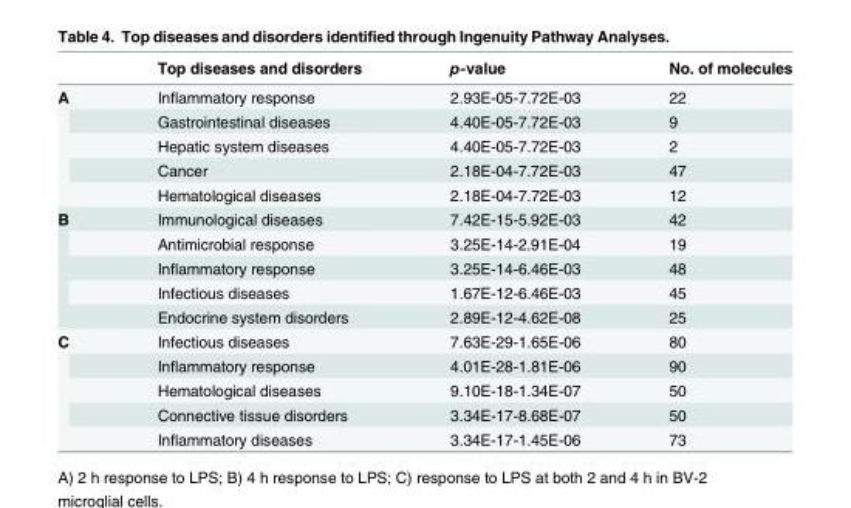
<table><thead><tr><td></td><td>Top diseases and disorders</td><td>p-value</td><td>No. of molecules</td></tr></thead><tbody><tr><td rowspan="5">A</td><td>Inflammatory response</td><td>2.93E-05-7.72E-03</td><td>22</td></tr><tr><td>Gastrointestinal diseases</td><td>4.40E-05-7.72E-03</td><td>9</td></tr><tr><td>Hepatic system diseases</td><td>4.40E-05-7.72E-03</td><td>2</td></tr><tr><td>Cancer</td><td>2.18E-04-7.72E-03</td><td>47</td></tr><tr><td>Hematological diseases</td><td>2.18E-04-7.72E-03</td><td>12</td></tr><tr><td rowspan="5">B</td><td>Immunological diseases</td><td>7.42E-15-5.92E-03</td><td>42</td></tr><tr><td>Antimicrobial response</td><td>3.25E-14-2.91E-04</td><td>19</td></tr><tr><td>Inflammatory response</td><td>3.25E-14-6.46E-03</td><td>48</td></tr><tr><td>Infectious diseases</td><td>1.67E-12-6.46E-03</td><td>45</td></tr><tr><td>Endocrine system disorders</td><td>2.89E-12-4.62E-08</td><td>25</td></tr><tr><td rowspan="5">C</td><td>Infectious diseases</td><td>7.63E-29-1.65E-06</td><td>80</td></tr><tr><td>Inflammatory response</td><td>4.01E-28-1.81E-06</td><td>90</td></tr><tr><td>Hematological diseases</td><td>9.10E-18-1.34E-07</td><td>50</td></tr><tr><td>Connective tissue disorders</td><td>3.34E-17-8.68E-07</td><td>50</td></tr><tr><td>Inflammatory diseases</td><td>3.34E-17-1.45E-06</td><td>73</td></tr></tbody></table>